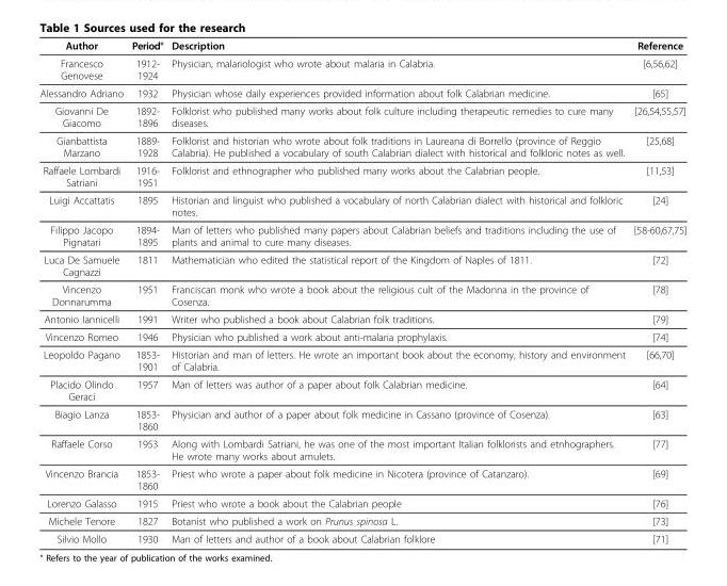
<table><thead><tr><td>Author</td><td>Period°</td><td>Description</td><td>Reference</td></tr></thead><tbody><tr><td>Francesco Genovese</td><td>1912- 1924</td><td>Physician, malariologist who wrote about malaria in Calabria.</td><td>[6,56,62]</td></tr><tr><td>Alessandro Adriano</td><td>1932</td><td>Physician whose daily experiences provided information about folk Calabrian medicine.</td><td>[65]</td></tr><tr><td>Giovanni De Giacomo</td><td>1892- 1896</td><td>Folklorist who published many works about folk culture including therapeutic remedies to cure many diseases.</td><td>[26,54,55,57]</td></tr><tr><td>Gianbattista Marzano</td><td>1889- 1928</td><td>Folklorist and historian who wrote about folk traditions in Laureana di Borrello (province of Reggio Calabria). He published a vocabulary of south Calabrian dialect with historical and folkloric notes as well.</td><td>[25,68]</td></tr><tr><td>Raffaele Lombardi Satriani</td><td>1916- 1951</td><td>Folklorist and ethnographer who published many works about the Calabrian people.</td><td>[11,53]</td></tr><tr><td>Luigi Accattatis</td><td>1895</td><td>Historian and linguist who published a vocabulary of north Calabrian dialect with historical and folkloric notes.</td><td>[24]</td></tr><tr><td>Filippo Jacopo Pignatari</td><td>1894- 1895</td><td>Man of letters who published many papers about Calabrian beliefs and traditions including the use of plants and animal to cure many diseases.</td><td>[58-60,67,75]</td></tr><tr><td>Luca De Samuele Cagnazzi</td><td>1811</td><td>Mathematician who edited the statistical report of the Kingdom of Naples of 1811.</td><td>[72]</td></tr><tr><td>Vincenzo Donnarumma</td><td>1951</td><td>Franciscan monk who wrote a book about the religious cult of the Madonna in the province of Cosenza.</td><td>[78]</td></tr><tr><td>Antonio Iannicelli</td><td>1991</td><td>Writer who published a book about Calabrian folk traditions.</td><td>[79]</td></tr><tr><td>Vincenzo Romeo</td><td>1946</td><td>Physician who published a work about anti-malaria prophylaxis.</td><td>[74]</td></tr><tr><td>Leopoldo Pagano</td><td>1853- 1901</td><td>Historian and man of letters. He wrote an important book about the economy, history and environment of Calabria.</td><td>[66,70]</td></tr><tr><td>Placido Olindo Geraci</td><td>1957</td><td>Man of letters was author of a paper about folk Calabrian medicine.</td><td>[64]</td></tr><tr><td>Biagio Lanza</td><td>1853- 1860</td><td>Physician and author of a paper about folk medicine in Cassano (province of Cosenza).</td><td>[63]</td></tr><tr><td>Raffaele Corso</td><td>1953</td><td>Along with Lombardi Satriani, he was one of the most important Italian folklorists and etnhographers. He wrote many works about amulets.</td><td>[77]</td></tr><tr><td>Vincenzo Brancia</td><td>1853- 1860</td><td>Priest who wrote a paper about folk medicine in Nicotera (province of Catanzaro).</td><td>[69]</td></tr><tr><td>Lorenzo Galasso</td><td>1915</td><td>Priest who wrote a book about the Calabrian people</td><td>[76]</td></tr><tr><td>Michele Tenore</td><td>1827</td><td>Botanist who published a work on Prunus spinosa L.</td><td>[73]</td></tr><tr><td>Silvio Mollo</td><td>1930</td><td>Man of letters and author of a book about Calabrian folklore</td><td>[71]</td></tr></tbody></table>